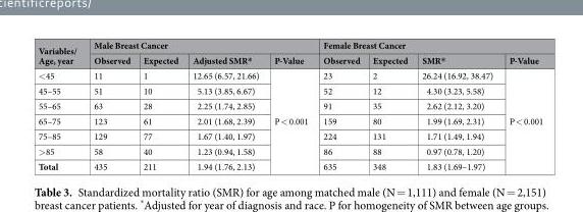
<table><thead><tr><td rowspan="2">Variables/ Age, year</td><td colspan="4">Male Breast Cancer</td><td colspan="4">Female Breast Cancer</td></tr><tr><td>Observed</td><td>Expected</td><td>Adjusted SMR*</td><td>P-Value</td><td>Observed</td><td>Expected</td><td>SMR*</td><td>P-Value</td></tr></thead><tbody><tr><td>&lt;45</td><td>11</td><td>1</td><td>12.65 (6.57, 21.66)</td><td rowspan="7">P &lt; 0.001</td><td>23</td><td>2</td><td>26.24 (16.92, 38.47)</td><td rowspan="7">P &lt; 0.001</td></tr><tr><td>45–55</td><td>51</td><td>10</td><td>5.13 (3.85, 6.67)</td><td>52</td><td>12</td><td>4.30 (3.23, 5.58)</td></tr><tr><td>55–65</td><td>63</td><td>28</td><td>2.25 (1.74, 2.85)</td><td>91</td><td>35</td><td>2.62 (2.12, 3.20)</td></tr><tr><td>65–75</td><td>123</td><td>61</td><td>2.01 (1.68, 2.39)</td><td>159</td><td>80</td><td>1.99 (1.69, 2.31)</td></tr><tr><td>75–85</td><td>129</td><td>77</td><td>1.67 (1.40, 1.97)</td><td>224</td><td>131</td><td>1.71 (1.49, 1.94)</td></tr><tr><td>&gt;85</td><td>58</td><td>40</td><td>1.23 (0.94, 1.58)</td><td>86</td><td>88</td><td>0.97 (0.78, 1.20)</td></tr><tr><td>Total</td><td>435</td><td>211</td><td>1.94 (1.76, 2.13)</td><td>635</td><td>348</td><td>1.83 (1.69–1.97)</td></tr></tbody></table>